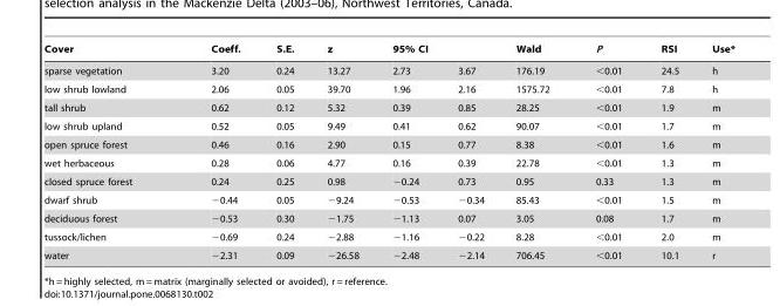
<table><thead><tr><td rowspan="2">Cover sparse vegetation</td><td rowspan="2">Coeff. 3.20</td><td rowspan="2">S.E. 0.24</td><td rowspan="2">z 13.27</td><td colspan="2">95% CI</td><td rowspan="2">Wald 176.19</td><td rowspan="2">P &lt;0.01</td><td rowspan="2">RSI 24.5</td><td rowspan="2">Use* h</td></tr><tr><td>2.73</td><td>3.67</td></tr></thead><tbody><tr><td>low shrub lowland</td><td>2.06</td><td>0.05</td><td>39.70</td><td>1.96</td><td>2.16</td><td>1575.72</td><td>&lt;0.01</td><td>7.8</td><td>h</td></tr><tr><td>tall shrub</td><td>0.62</td><td>0.12</td><td>5.32</td><td>0.39</td><td>0.85</td><td>28.25</td><td>&lt;0.01</td><td>1.9</td><td>m</td></tr><tr><td>low shrub upland</td><td>0.52</td><td>0.05</td><td>9.49</td><td>0.41</td><td>0.62</td><td>90.07</td><td>&lt;0.01</td><td>1.7</td><td>m</td></tr><tr><td>open spruce forest</td><td>0.46</td><td>0.16</td><td>2.90</td><td>0.15</td><td>0.77</td><td>8.38</td><td>&lt;0.01</td><td>1.6</td><td>m</td></tr><tr><td>wet herbaceous</td><td>0.28</td><td>0.06</td><td>4.77</td><td>0.16</td><td>0.39</td><td>22.78</td><td>&lt;0.01</td><td>1.3</td><td>m</td></tr><tr><td>closed spruce forest</td><td>0.24</td><td>0.25</td><td>0.98</td><td>−0.24</td><td>0.73</td><td>0.95</td><td>0.33</td><td>1.3</td><td>m</td></tr><tr><td>dwarf shrub</td><td>−0.44</td><td>0.05</td><td>−9.24</td><td>−0.53</td><td>−0.34</td><td>85.43</td><td>&lt;0.01</td><td>1.5</td><td>m</td></tr><tr><td>deciduous forest</td><td>−0.53</td><td>0.30</td><td>−1.75</td><td>−1.13</td><td>0.07</td><td>3.05</td><td>0.08</td><td>1.7</td><td>m</td></tr><tr><td>tussock/lichen</td><td>−0.69</td><td>0.24</td><td>−2.88</td><td>−1.16</td><td>−0.22</td><td>8.28</td><td>&lt;0.01</td><td>2.0</td><td>m</td></tr><tr><td>water</td><td>−2.31</td><td>0.09</td><td>−26.58</td><td>−2.48</td><td>−2.14</td><td>706.45</td><td>&lt;0.01</td><td>10.1</td><td>r</td></tr></tbody></table>